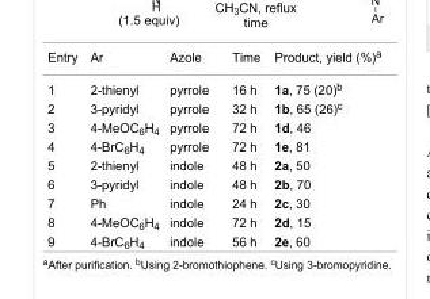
<table><tbody><tr><td>Entry</td><td>Ar</td><td>Azole</td><td>Time</td><td>Product, yield (%)<sup>a</sup></td></tr><tr><td>1</td><td>2-thienyl</td><td>pyrrole</td><td>16 h</td><td>1a, 75 (20)<sup>b</sup></td></tr><tr><td>2</td><td>3-pyridyl</td><td>pyrrole</td><td>32 h</td><td>1b, 65 (26)<sup>c</sup></td></tr><tr><td>3</td><td>4-MeOC<sub>6</sub>H<sub>4</sub></td><td>pyrrole</td><td>72 h</td><td>1d, 46</td></tr><tr><td>4</td><td>4-BrC<sub>6</sub>H<sub>4</sub></td><td>pyrrole</td><td>72 h</td><td>1e, 81</td></tr><tr><td>5</td><td>2-thienyl</td><td>indole</td><td>48 h</td><td>2a, 50</td></tr><tr><td>6</td><td>3-pyridyl</td><td>indole</td><td>48 h</td><td>2b, 70</td></tr><tr><td>7</td><td>Ph</td><td>indole</td><td>24 h</td><td>2c, 30</td></tr><tr><td>8</td><td>4-MeOC<sub>6</sub>H<sub>4</sub></td><td>indole</td><td>72 h</td><td>2d, 15</td></tr><tr><td>9</td><td>4-BrC<sub>6</sub>H<sub>4</sub></td><td>indole</td><td>56 h</td><td>2e, 60</td></tr></tbody></table>